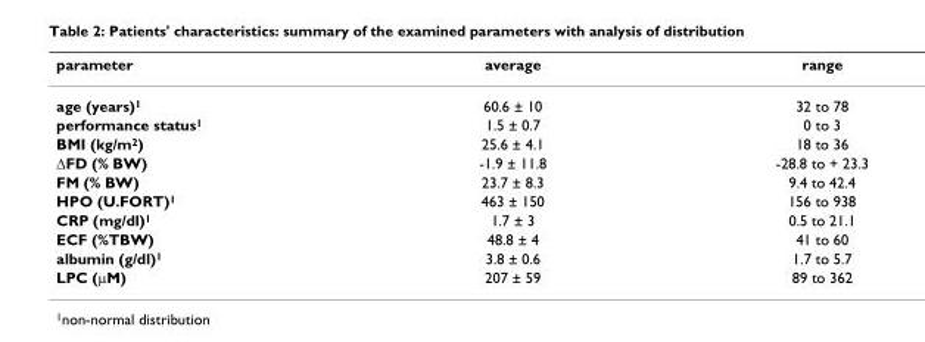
<table><thead><tr><td>parameter</td><td>average</td><td>range</td></tr></thead><tbody><tr><td>age (years)<sup>1</sup></td><td>60.6 ± 10</td><td>32 to 78</td></tr><tr><td>performance status<sup>1</sup></td><td>1.5 ± 0.7</td><td>0 to 3</td></tr><tr><td>BMI (kg/m<sup>2</sup>)</td><td>25.6 ± 4.1</td><td>18 to 36</td></tr><tr><td>ΔFD (% BW)</td><td>-1.9 ± 11.8</td><td>-28.8 to + 23.3</td></tr><tr><td>FM (% BW)</td><td>23.7 ± 8.3</td><td>9.4 to 42.4</td></tr><tr><td>HPO (U.FORT)<sup>1</sup></td><td>463 ± 150</td><td>156 to 938</td></tr><tr><td>CRP (mg/dl)<sup>1</sup></td><td>1.7 ± 3</td><td>0.5 to 21.1</td></tr><tr><td>ECF (%TBW)</td><td>48.8 ± 4</td><td>41 to 60</td></tr><tr><td>albumin (g/dl)<sup>1</sup></td><td>3.8 ± 0.6</td><td>1.7 to 5.7</td></tr><tr><td>LPC (μM)</td><td>207 ± 59</td><td>89 to 362</td></tr></tbody></table>